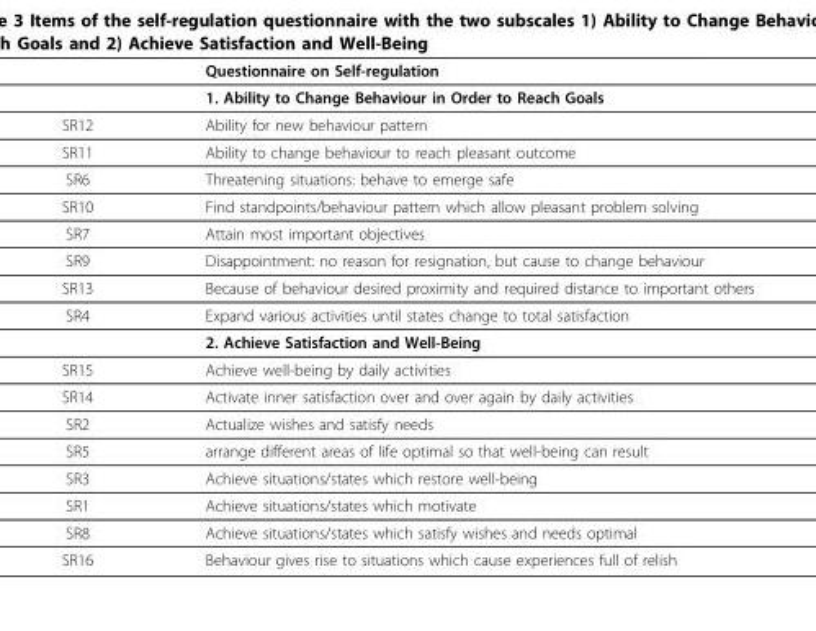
<table><thead><tr><td></td><td>Questionnaire on Self-regulation</td></tr></thead><tbody><tr><td></td><td>1. Ability to Change Behaviour in Order to Reach Goals</td></tr><tr><td>SR12</td><td>Ability for new behaviour pattern</td></tr><tr><td>SR11</td><td>Ability to change behaviour to reach pleasant outcome</td></tr><tr><td>SR6</td><td>Threatening situations: behave to emerge safe</td></tr><tr><td>SR10</td><td>Find standpoints/behaviour pattern which allow pleasant problem solving</td></tr><tr><td>SR7</td><td>Attain most important objectives</td></tr><tr><td>SR9</td><td>Disappointment: no reason for resignation, but cause to change behaviour</td></tr><tr><td>SR13</td><td>Because of behaviour desired proximity and required distance to important others</td></tr><tr><td rowspan="2">SR4</td><td>Expand various activities until states change to total satisfaction</td></tr><tr><td>2. Achieve Satisfaction and Well-Being</td></tr><tr><td>SR15</td><td>Achieve well-being by daily activities</td></tr><tr><td>SR14</td><td>Activate inner satisfaction over and over again by daily activities</td></tr><tr><td>SR2</td><td>Actualize wishes and satisfy needs</td></tr><tr><td>SR5</td><td>arrange different areas of life optimal so that well-being can result</td></tr><tr><td>SR3</td><td>Achieve situations/states which restore well-being</td></tr><tr><td>SR1</td><td>Achieve situations/states which motivate</td></tr><tr><td>SR8</td><td>Achieve situations/states which satisfy wishes and needs optimal</td></tr><tr><td>SR16</td><td>Behaviour gives rise to situations which cause experiences full of relish</td></tr></tbody></table>